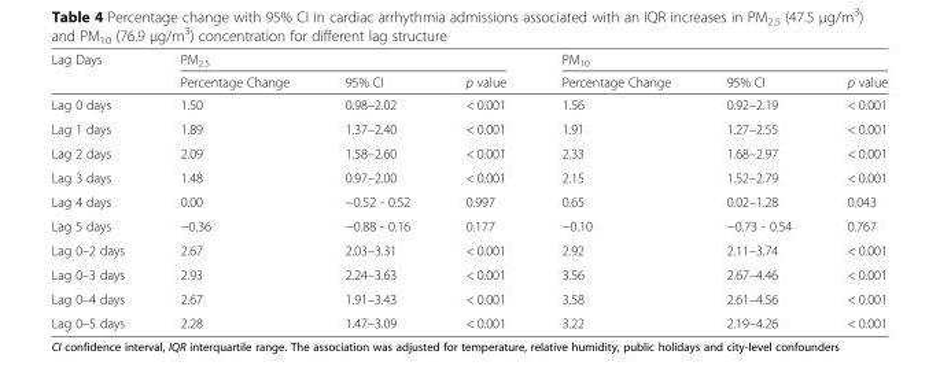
<table><thead><tr><td rowspan="2">Lag Days</td><td colspan="3">PM<sub>2.5</sub></td><td colspan="3">PM<sub>10</sub></td></tr><tr><td>Percentage Change</td><td>95% CI</td><td>p value</td><td>Percentage Change</td><td>95% CI</td><td>p value</td></tr></thead><tbody><tr><td>Lag 0 days</td><td>1.50</td><td>0.98–2.02</td><td>&lt; 0.001</td><td>1.56</td><td>0.92–2.19</td><td>&lt; 0.001</td></tr><tr><td>Lag 1 days</td><td>1.89</td><td>1.37–2.40</td><td>&lt; 0.001</td><td>1.91</td><td>1.27–2.55</td><td>&lt; 0.001</td></tr><tr><td>Lag 2 days</td><td>2.09</td><td>1.58–2.60</td><td>&lt; 0.001</td><td>2.33</td><td>1.68–2.97</td><td>&lt; 0.001</td></tr><tr><td>Lag 3 days</td><td>1.48</td><td>0.97–2.00</td><td>&lt; 0.001</td><td>2.15</td><td>1.52–2.79</td><td>&lt; 0.001</td></tr><tr><td>Lag 4 days</td><td>0.00</td><td>−0.52 - 0.52</td><td>0.997</td><td>0.65</td><td>0.02–1.28</td><td>0.043</td></tr><tr><td>Lag 5 days</td><td>−0.36</td><td>−0.88 - 0.16</td><td>0.177</td><td>−0.10</td><td>−0.73 - 0.54</td><td>0.767</td></tr><tr><td>Lag 0–2 days</td><td>2.67</td><td>2.03–3.31</td><td>&lt; 0.001</td><td>2.92</td><td>2.11–3.74</td><td>&lt; 0.001</td></tr><tr><td>Lag 0–3 days</td><td>2.93</td><td>2.24–3.63</td><td>&lt; 0.001</td><td>3.56</td><td>2.67–4.46</td><td>&lt; 0.001</td></tr><tr><td>Lag 0–4 days</td><td>2.67</td><td>1.91–3.43</td><td>&lt; 0.001</td><td>3.58</td><td>2.61–4.56</td><td>&lt; 0.001</td></tr><tr><td>Lag 0–5 days</td><td>2.28</td><td>1.47–3.09</td><td>&lt; 0.001</td><td>3.22</td><td>2.19–4.26</td><td>&lt; 0.001</td></tr></tbody></table>